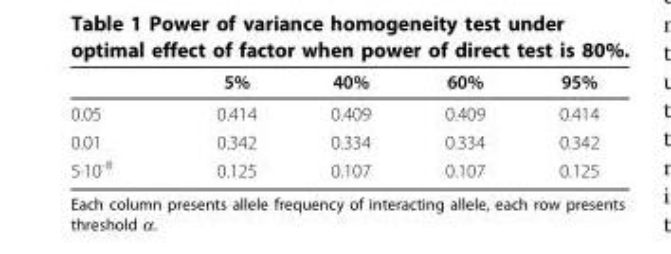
<table><thead><tr><td></td><td>5%</td><td>40%</td><td>60%</td><td>95%</td></tr></thead><tbody><tr><td>0.05</td><td>0.414</td><td>0.409</td><td>0.409</td><td>0.414</td></tr><tr><td>0.01</td><td>0.342</td><td>0.334</td><td>0.334</td><td>0.342</td></tr><tr><td>5·10<sup>-8</sup></td><td>0.125</td><td>0.107</td><td>0.107</td><td>0.125</td></tr></tbody></table>